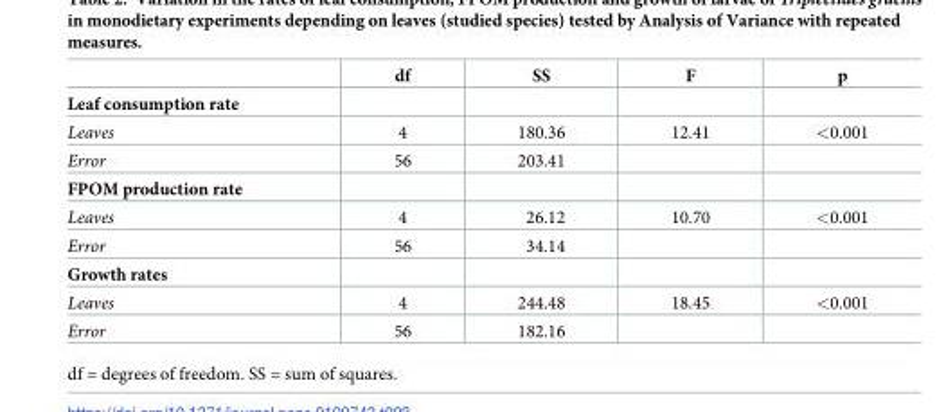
<table><thead><tr><td></td><td>df</td><td>SS</td><td>F</td><td>p</td></tr></thead><tbody><tr><td colspan="5">Leaf consumption rate</td></tr><tr><td>Leaves</td><td>4</td><td>180.36</td><td>12.41</td><td>&lt;0.001</td></tr><tr><td>Error</td><td>56</td><td>203.41</td><td></td><td></td></tr><tr><td colspan="5">FPOM production rate</td></tr><tr><td>Leaves</td><td>4</td><td>26.12</td><td>10.70</td><td>&lt;0.001</td></tr><tr><td>Error</td><td>56</td><td>34.14</td><td></td><td></td></tr><tr><td colspan="5">Growth rates</td></tr><tr><td>Leaves</td><td>4</td><td>244.48</td><td>18.45</td><td>&lt;0.001</td></tr><tr><td>Error</td><td>56</td><td>182.16</td><td></td><td></td></tr></tbody></table>